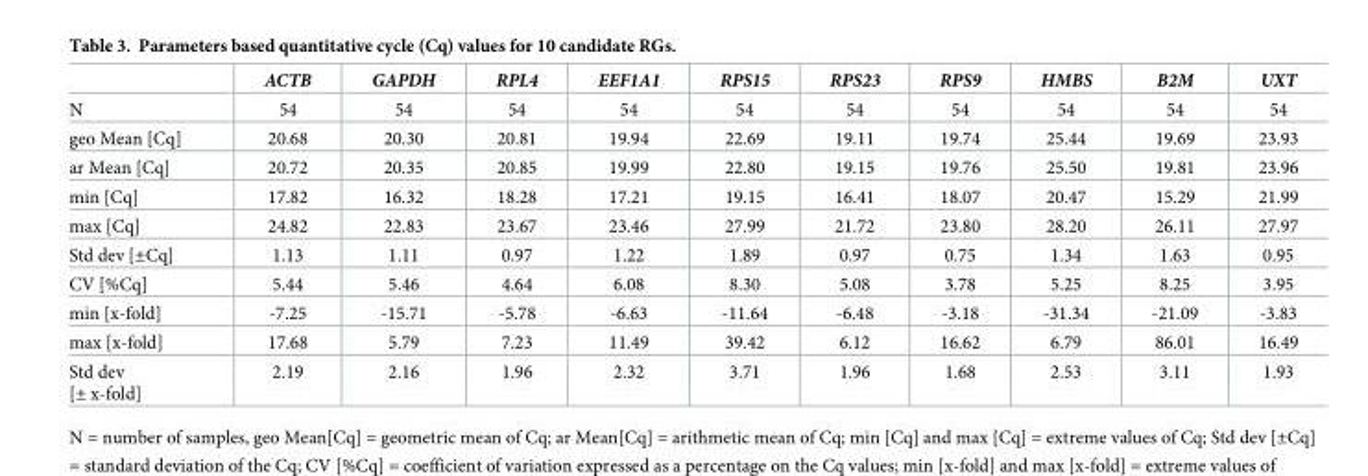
<table><thead><tr><td></td><td>ACTB</td><td>GAPDH</td><td>RPL4</td><td>EEF1A1</td><td>RPS15</td><td>RPS23</td><td>RPS9</td><td>HMBS</td><td>B2M</td><td>UXT</td></tr></thead><tbody><tr><td>N</td><td>54</td><td>54</td><td>54</td><td>54</td><td>54</td><td>54</td><td>54</td><td>54</td><td>54</td><td>54</td></tr><tr><td>geo Mean [Cq]</td><td>20.68</td><td>20.30</td><td>20.81</td><td>19.94</td><td>22.69</td><td>19.11</td><td>19.74</td><td>25.44</td><td>19.69</td><td>23.93</td></tr><tr><td>ar Mean [Cq]</td><td>20.72</td><td>20.35</td><td>20.85</td><td>19.99</td><td>22.80</td><td>19.15</td><td>19.76</td><td>25.50</td><td>19.81</td><td>23.96</td></tr><tr><td>min [Cq]</td><td>17.82</td><td>16.32</td><td>18.28</td><td>17.21</td><td>19.15</td><td>16.41</td><td>18.07</td><td>20.47</td><td>15.29</td><td>21.99</td></tr><tr><td>max [Cq]</td><td>24.82</td><td>22.83</td><td>23.67</td><td>23.46</td><td>27.99</td><td>21.72</td><td>23.80</td><td>28.20</td><td>26.11</td><td>27.97</td></tr><tr><td>Std dev [±Cq]</td><td>1.13</td><td>1.11</td><td>0.97</td><td>1.22</td><td>1.89</td><td>0.97</td><td>0.75</td><td>1.34</td><td>1.63</td><td>0.95</td></tr><tr><td>CV [%Cq]</td><td>5.44</td><td>5.46</td><td>4.64</td><td>6.08</td><td>8.30</td><td>5.08</td><td>3.78</td><td>5.25</td><td>8.25</td><td>3.95</td></tr><tr><td>min [x-fold]</td><td>-7.25</td><td>-15.71</td><td>-5.78</td><td>-6.63</td><td>-11.64</td><td>-6.48</td><td>-3.18</td><td>-31.34</td><td>-21.09</td><td>-3.83</td></tr><tr><td>max [x-fold]</td><td>17.68</td><td>5.79</td><td>7.23</td><td>11.49</td><td>39.42</td><td>6.12</td><td>16.62</td><td>6.79</td><td>86.01</td><td>16.49</td></tr><tr><td>Std dev [± x-fold]</td><td>2.19</td><td>2.16</td><td>1.96</td><td>2.32</td><td>3.71</td><td>1.96</td><td>1.68</td><td>2.53</td><td>3.11</td><td>1.93</td></tr></tbody></table>